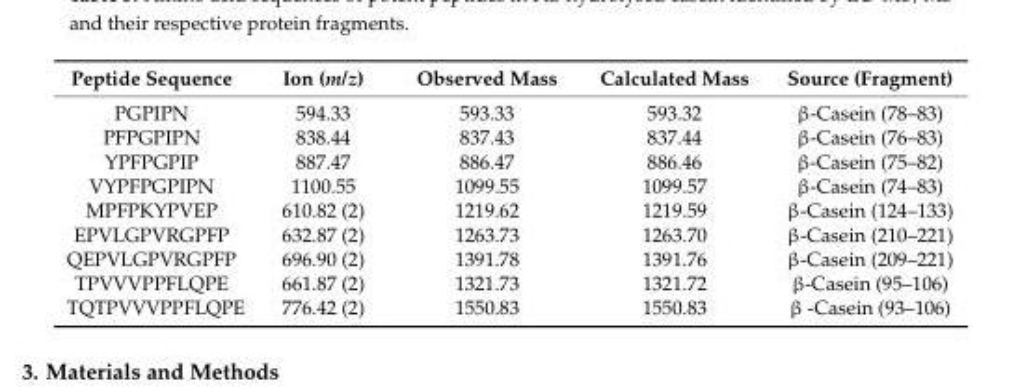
<table><thead><tr><td>Peptide Sequence</td><td>Ion (m/z)</td><td>Observed Mass</td><td>Calculated Mass</td><td>Source (Fragment)</td></tr></thead><tbody><tr><td>PGPIPN</td><td>594.33</td><td>593.33</td><td>593.32</td><td>β-Casein (78–83)</td></tr><tr><td>PFPGPIPN</td><td>838.44</td><td>837.43</td><td>837.44</td><td>β-Casein (76–83)</td></tr><tr><td>YPFPGPIP</td><td>887.47</td><td>886.47</td><td>886.46</td><td>β-Casein (75–82)</td></tr><tr><td>VYPFPGPIPN</td><td>1100.55</td><td>1099.55</td><td>1099.57</td><td>β-Casein (74–83)</td></tr><tr><td>MPFPKYPVEP</td><td>610.82 (2)</td><td>1219.62</td><td>1219.59</td><td>β-Casein (124–133)</td></tr><tr><td>EPVLGPVRGPFP</td><td>632.87 (2)</td><td>1263.73</td><td>1263.70</td><td>β-Casein (210–221)</td></tr><tr><td>QEPVLGPVRGPFP</td><td>696.90 (2)</td><td>1391.78</td><td>1391.76</td><td>β-Casein (209–221)</td></tr><tr><td>TPVVVPPFLQPE</td><td>661.87 (2)</td><td>1321.73</td><td>1321.72</td><td>β-Casein (95–106)</td></tr><tr><td>TQTPVVVPPFLQPE</td><td>776.42 (2)</td><td>1550.83</td><td>1550.83</td><td>β -Casein (93–106)</td></tr></tbody></table>